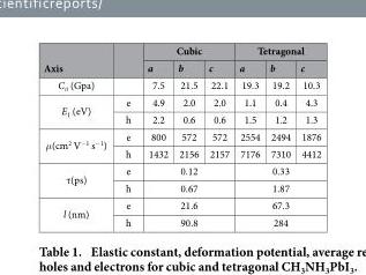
<table><thead><tr><td rowspan="2">Axis</td><td rowspan="2"></td><td colspan="3">Cubic</td><td colspan="3">Tetragonal</td></tr><tr><td>a</td><td>b</td><td>c</td><td>a</td><td>b</td><td>c</td></tr></thead><tbody><tr><td>C<sub>ii</sub> (Gpa)</td><td></td><td>7.5</td><td>21.5</td><td>22.1</td><td>19.3</td><td>19.2</td><td>10.3</td></tr><tr><td rowspan="2">E<sub>1</sub> (eV)</td><td>e</td><td>4.9</td><td>2.0</td><td>2.0</td><td>1.1</td><td>0.4</td><td>4.3</td></tr><tr><td>h</td><td>2.2</td><td>0.6</td><td>0.6</td><td>1.5</td><td>1.2</td><td>1.3</td></tr><tr><td rowspan="2">μ(cm<sup>2</sup> V<sup>−1</sup> s<sup>−1</sup>)</td><td>e</td><td>800</td><td>572</td><td>572</td><td>2554</td><td>2494</td><td>1876</td></tr><tr><td>h</td><td>1432</td><td>2156</td><td>2157</td><td>7176</td><td>7310</td><td>4412</td></tr><tr><td rowspan="2">τ(ps)</td><td>e</td><td colspan="3">0.12</td><td colspan="3">0.33</td></tr><tr><td>h</td><td colspan="3">0.67</td><td colspan="3">1.87</td></tr><tr><td rowspan="2">l (nm)</td><td>e</td><td colspan="3">21.6</td><td colspan="3">67.3</td></tr><tr><td>h</td><td colspan="3">90.8</td><td colspan="3">284</td></tr></tbody></table>